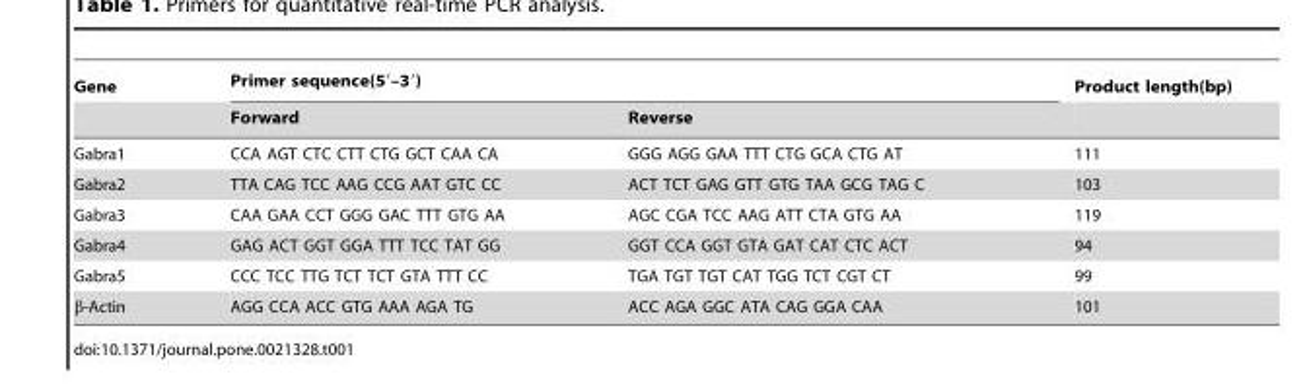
<table><thead><tr><td rowspan="2">Gene</td><td colspan="2">Primer sequence(5′–3′)</td><td rowspan="2">Product length(bp)</td></tr><tr><td>Forward</td><td>Reverse</td></tr></thead><tbody><tr><td>Gabra1</td><td>CCA AGT CTC CTT CTG GCT CAA CA</td><td>GGG AGG GAA TTT CTG GCA CTG AT</td><td>111</td></tr><tr><td>Gabra2</td><td>TTA CAG TCC AAG CCG AAT GTC CC</td><td>ACT TCT GAG GTT GTG TAA GCG TAG C</td><td>103</td></tr><tr><td>Gabra3</td><td>CAA GAA CCT GGG GAC TTT GTG AA</td><td>AGC CGA TCC AAG ATT CTA GTG AA</td><td>119</td></tr><tr><td>Gabra4</td><td>GAG ACT GGT GGA TTT TCC TAT GG</td><td>GGT CCA GGT GTA GAT CAT CTC ACT</td><td>94</td></tr><tr><td>Gabra5</td><td>CCC TCC TTG TCT TCT GTA TTT CC</td><td>TGA TGT TGT CAT TGG TCT CGT CT</td><td>99</td></tr><tr><td>β-Actin</td><td>AGG CCA ACC GTG AAA AGA TG</td><td>ACC AGA GGC ATA CAG GGA CAA</td><td>101</td></tr></tbody></table>